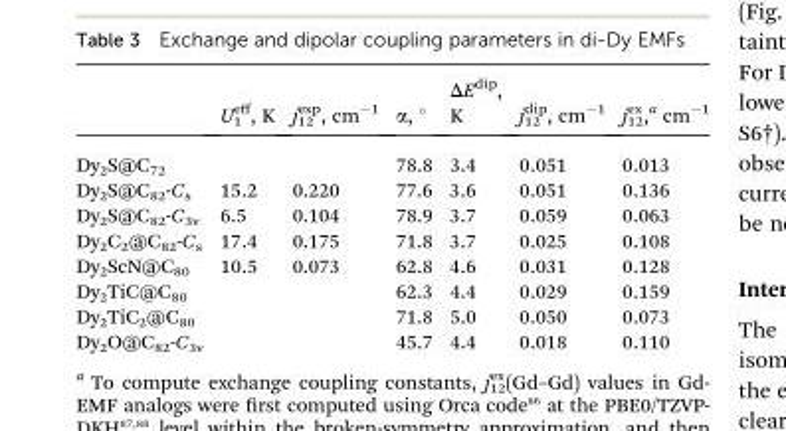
<table><thead><tr><td></td><td>Ueff 1 , K</td><td>jexp 12 , cm<sup>–1</sup></td><td>α, °</td><td>ΔE<sup>dip</sup>, K</td><td>jdip 12 , cm<sup>–1</sup></td><td>jex 12,<sup>a</sup> cm<sup>–1</sup></td></tr></thead><tbody><tr><td>Dy<sub>2</sub>S@C<sub>72</sub></td><td></td><td></td><td>78.8</td><td>3.4</td><td>0.051</td><td>0.013</td></tr><tr><td>Dy<sub>2</sub>S@C<sub>82</sub>-C<sub>s</sub></td><td>15.2</td><td>0.220</td><td>77.6</td><td>3.6</td><td>0.051</td><td>0.136</td></tr><tr><td>Dy<sub>2</sub>S@C<sub>82</sub>-C<sub>3v</sub></td><td>6.5</td><td>0.104</td><td>78.9</td><td>3.7</td><td>0.059</td><td>0.063</td></tr><tr><td>Dy<sub>2</sub>C<sub>2</sub>@C<sub>82</sub>-C<sub>s</sub></td><td>17.4</td><td>0.175</td><td>71.8</td><td>3.7</td><td>0.025</td><td>0.108</td></tr><tr><td>Dy<sub>2</sub>ScN@C<sub>80</sub></td><td>10.5</td><td>0.073</td><td>62.8</td><td>4.6</td><td>0.031</td><td>0.128</td></tr><tr><td>Dy<sub>2</sub>TiC@C<sub>80</sub></td><td></td><td></td><td>62.3</td><td>4.4</td><td>0.029</td><td>0.159</td></tr><tr><td>Dy<sub>2</sub>TiC<sub>2</sub>@C<sub>80</sub></td><td></td><td></td><td>71.8</td><td>5.0</td><td>0.050</td><td>0.073</td></tr><tr><td>Dy<sub>2</sub>O@C<sub>82</sub>-C<sub>3v</sub></td><td></td><td></td><td>45.7</td><td>4.4</td><td>0.018</td><td>0.110</td></tr></tbody></table>